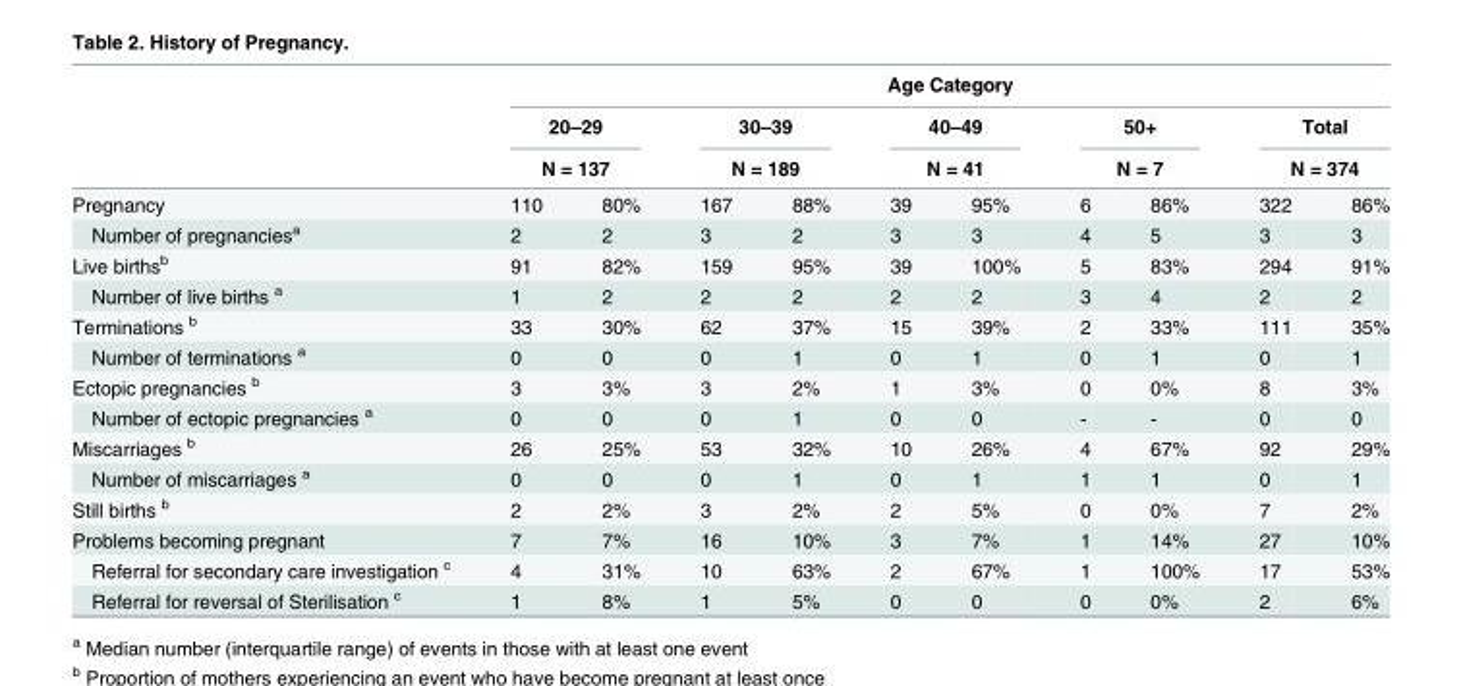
<table><thead><tr><td rowspan="4">Pregnancy</td><td colspan="10">Age Category</td></tr><tr><td rowspan="2" colspan="2">20–29 N = 137</td><td rowspan="2" colspan="2">30–39 N = 189</td><td rowspan="2" colspan="2">40–49 N = 41</td><td rowspan="2" colspan="2">50+ N = 7</td><td rowspan="2" colspan="2">Total N = 374</td></tr><tr></tr><tr><td>110</td><td>80%</td><td>167</td><td>88%</td><td>39</td><td>95%</td><td>6</td><td>86%</td><td>322</td><td>86%</td></tr></thead><tbody><tr><td>Number of pregnancies<sup>a</sup></td><td>2</td><td>2</td><td>3</td><td>2</td><td>3</td><td>3</td><td>4</td><td>5</td><td>3</td><td>3</td></tr><tr><td>Live births<sup>b</sup></td><td>91</td><td>82%</td><td>159</td><td>95%</td><td>39</td><td>100%</td><td>5</td><td>83%</td><td>294</td><td>91%</td></tr><tr><td>Number of live births <sup>a</sup></td><td>1</td><td>2</td><td>2</td><td>2</td><td>2</td><td>2</td><td>3</td><td>4</td><td>2</td><td>2</td></tr><tr><td>Terminations <sup>b</sup></td><td>33</td><td>30%</td><td>62</td><td>37%</td><td>15</td><td>39%</td><td>2</td><td>33%</td><td>111</td><td>35%</td></tr><tr><td>Number of terminations <sup>a</sup></td><td>0</td><td>0</td><td>0</td><td>1</td><td>0</td><td>1</td><td>0</td><td>1</td><td>0</td><td>1</td></tr><tr><td>Ectopic pregnancies <sup>b</sup></td><td>3</td><td>3%</td><td>3</td><td>2%</td><td>1</td><td>3%</td><td>0</td><td>0%</td><td>8</td><td>3%</td></tr><tr><td>Number of ectopic pregnancies <sup>a</sup></td><td>0</td><td>0</td><td>0</td><td>1</td><td>0</td><td>0</td><td>-</td><td>-</td><td>0</td><td>0</td></tr><tr><td>Miscarriages <sup>b</sup></td><td>26</td><td>25%</td><td>53</td><td>32%</td><td>10</td><td>26%</td><td>4</td><td>67%</td><td>92</td><td>29%</td></tr><tr><td>Number of miscarriages <sup>a</sup></td><td>0</td><td>0</td><td>0</td><td>1</td><td>0</td><td>1</td><td>1</td><td>1</td><td>0</td><td>1</td></tr><tr><td>Still births <sup>b</sup></td><td>2</td><td>2%</td><td>3</td><td>2%</td><td>2</td><td>5%</td><td>0</td><td>0%</td><td>7</td><td>2%</td></tr><tr><td>Problems becoming pregnant</td><td>7</td><td>7%</td><td>16</td><td>10%</td><td>3</td><td>7%</td><td>1</td><td>14%</td><td>27</td><td>10%</td></tr><tr><td>Referral for secondary care investigation <sup>c</sup></td><td>4</td><td>31%</td><td>10</td><td>63%</td><td>2</td><td>67%</td><td>1</td><td>100%</td><td>17</td><td>53%</td></tr><tr><td>Referral for reversal of Sterilisation <sup>c</sup></td><td>1</td><td>8%</td><td>1</td><td>5%</td><td>0</td><td>0</td><td>0</td><td>0%</td><td>2</td><td>6%</td></tr></tbody></table>